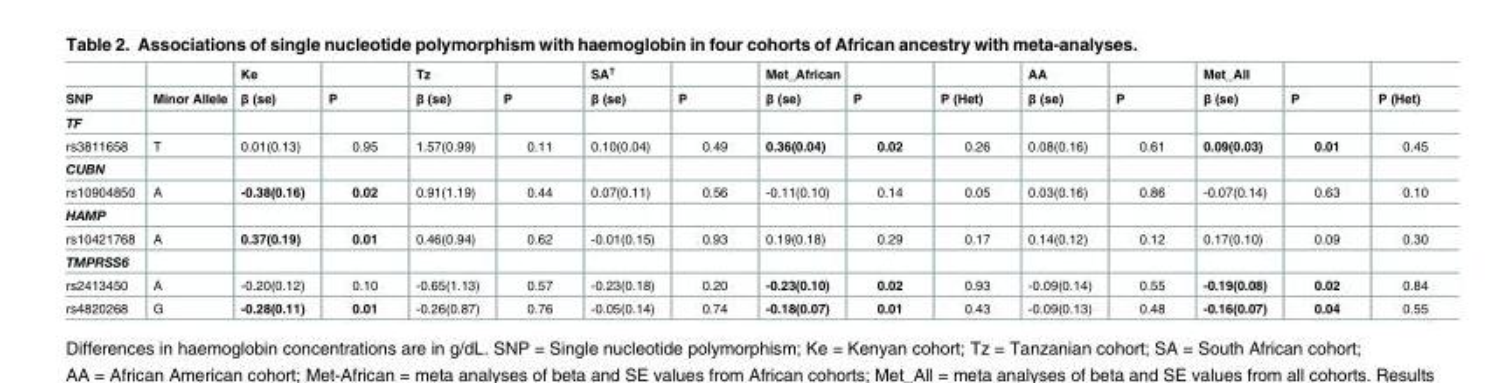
<table><thead><tr><td rowspan="2">SNP</td><td rowspan="2">Minor Allele</td><td rowspan="2">Ke β (se)</td><td rowspan="2">P</td><td rowspan="2">Tz β (se)</td><td rowspan="2">P</td><td rowspan="2">SA<sup>†</sup> β (se)</td><td rowspan="2">P</td><td rowspan="2">Met_African β (se)</td><td rowspan="2">P</td><td rowspan="2">P (Het)</td><td rowspan="2">AA β (se)</td><td rowspan="2">P</td><td rowspan="2">Met_All β (se)</td><td rowspan="2">P</td><td rowspan="2">P (Het)</td></tr><tr></tr></thead><tbody><tr><td colspan="16">TF</td></tr><tr><td>rs3811658</td><td>T</td><td>0.01(0.13)</td><td>0.95</td><td>1.57(0.99)</td><td>0.11</td><td>0.10(0.04)</td><td>0.49</td><td>0.36(0.04)</td><td>0.02</td><td>0.26</td><td>0.08(0.16)</td><td>0.61</td><td>0.09(0.03)</td><td>0.01</td><td>0.45</td></tr><tr><td colspan="16">CUBN</td></tr><tr><td>rs10904850</td><td>A</td><td>-0.38(0.16)</td><td>0.02</td><td>0.91(1.19)</td><td>0.44</td><td>0.07(0.11)</td><td>0.56</td><td>-0.11(0.10)</td><td>0.14</td><td>0.05</td><td>0.03(0.16)</td><td>0.86</td><td>-0.07(0.14)</td><td>0.63</td><td>0.10</td></tr><tr><td colspan="16">HAMP</td></tr><tr><td>rs10421768</td><td>A</td><td>0.37(0.19)</td><td>0.01</td><td>0.46(0.94)</td><td>0.62</td><td>-0.01(0.15)</td><td>0.93</td><td>0.19(0.18)</td><td>0.29</td><td>0.17</td><td>0.14(0.12)</td><td>0.12</td><td>0.17(0.10)</td><td>0.09</td><td>0.30</td></tr><tr><td colspan="16">TMPRSS6</td></tr><tr><td>rs2413450</td><td>A</td><td>-0.20(0.12)</td><td>0.10</td><td>-0.65(1.13)</td><td>0.57</td><td>-0.23(0.18)</td><td>0.20</td><td>-0.23(0.10)</td><td>0.02</td><td>0.93</td><td>-0.09(0.14)</td><td>0.55</td><td>-0.19(0.08)</td><td>0.02</td><td>0.84</td></tr><tr><td>rs4820268</td><td>G</td><td>-0.28(0.11)</td><td>0.01</td><td>-0.26(0.87)</td><td>0.76</td><td>-0.05(0.14)</td><td>0.74</td><td>-0.18(0.07)</td><td>0.01</td><td>0.43</td><td>-0.09(0.13)</td><td>0.48</td><td>-0.16(0.07)</td><td>0.04</td><td>0.55</td></tr></tbody></table>